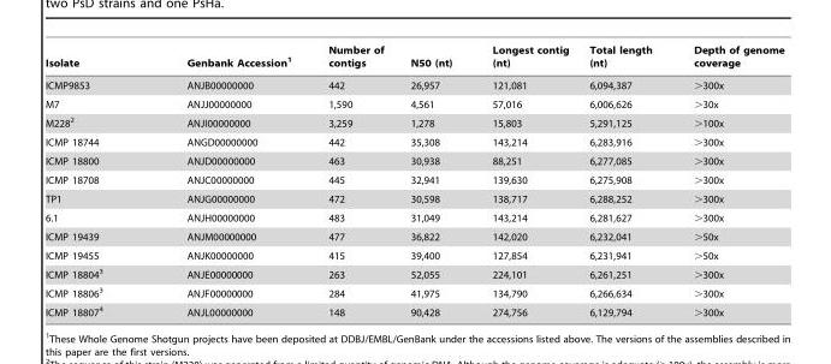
<table><thead><tr><td>Isolate</td><td>Genbank Accession<sup>1</sup></td><td>Number of contigs</td><td>N50 (nt)</td><td>Longest contig (nt)</td><td>Total length (nt)</td><td>Depth of genome coverage</td></tr></thead><tbody><tr><td>ICMP9853</td><td>ANJB00000000</td><td>442</td><td>26,957</td><td>121,081</td><td>6,094,387</td><td>&gt;300x</td></tr><tr><td>M7</td><td>ANJJ00000000</td><td>1,590</td><td>4,561</td><td>57,016</td><td>6,006,626</td><td>&gt;30x</td></tr><tr><td>M228<sup>2</sup></td><td>ANJI00000000</td><td>3,259</td><td>1,278</td><td>15,803</td><td>5,291,125</td><td>&gt;100x</td></tr><tr><td>ICMP 18744</td><td>ANGD00000000</td><td>442</td><td>35,308</td><td>143,214</td><td>6,283,916</td><td>&gt;300x</td></tr><tr><td>ICMP 18800</td><td>ANJD00000000</td><td>463</td><td>30,938</td><td>88,251</td><td>6,277,085</td><td>&gt;300x</td></tr><tr><td>ICMP 18708</td><td>ANJC00000000</td><td>445</td><td>32,941</td><td>139,630</td><td>6,275,908</td><td>&gt;300x</td></tr><tr><td>TP1</td><td>ANJG00000000</td><td>472</td><td>30,598</td><td>138,717</td><td>6,288,252</td><td>&gt;300x</td></tr><tr><td>6.1</td><td>ANJH00000000</td><td>483</td><td>31,049</td><td>143,214</td><td>6,281,627</td><td>&gt;300x</td></tr><tr><td>ICMP 19439</td><td>ANJM00000000</td><td>477</td><td>36,822</td><td>142,020</td><td>6,232,041</td><td>&gt;50x</td></tr><tr><td>ICMP 19455</td><td>ANJK00000000</td><td>415</td><td>39,400</td><td>127,854</td><td>6,231,941</td><td>&gt;50x</td></tr><tr><td>ICMP 18804<sup>3</sup></td><td>ANJE00000000</td><td>263</td><td>52,055</td><td>224,101</td><td>6,261,251</td><td>&gt;300x</td></tr><tr><td>ICMP 18806<sup>3</sup></td><td>ANJF00000000</td><td>284</td><td>41,975</td><td>134,790</td><td>6,266,634</td><td>&gt;300x</td></tr><tr><td>ICMP 18807<sup>4</sup></td><td>ANJL00000000</td><td>148</td><td>90,428</td><td>274,756</td><td>6,129,794</td><td>&gt;300x</td></tr></tbody></table>